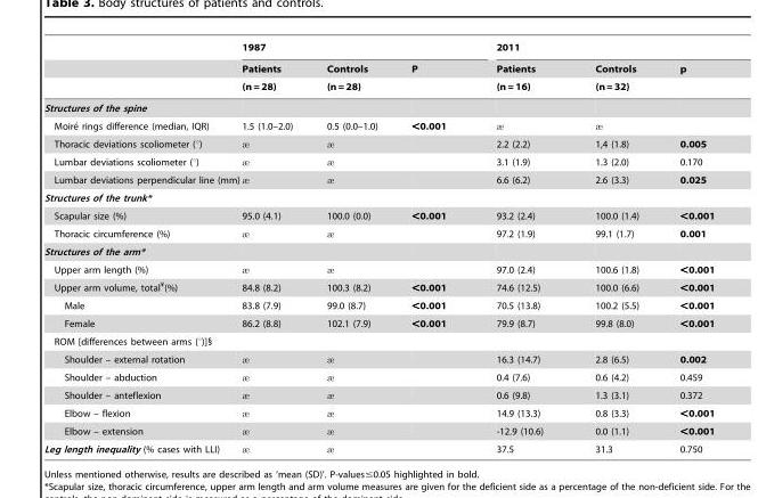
<table><thead><tr><td rowspan="3"></td><td colspan="3">1987</td><td colspan="3">2011</td></tr><tr><td rowspan="2">Patients (n = 28)</td><td rowspan="2">Controls (n = 28)</td><td rowspan="2">P</td><td rowspan="2">Patients (n = 16)</td><td rowspan="2">Controls (n = 32)</td><td rowspan="2">p</td></tr><tr></tr></thead><tbody><tr><td colspan="7">Structures of the spine</td></tr><tr><td>Moire´ rings difference (median, IQR)</td><td>1.5 (1.0–2.0)</td><td>0.5 (0.0–1.0)</td><td>&lt;0.001</td><td>�</td><td>�</td><td></td></tr><tr><td>Thoracic deviations scoliometer (°)</td><td>�</td><td>�</td><td></td><td>2.2 (2.2)</td><td>1,4 (1.8)</td><td>0.005</td></tr><tr><td>Lumbar deviations scoliometer (°)</td><td>�</td><td>�</td><td></td><td>3.1 (1.9)</td><td>1.3 (2.0)</td><td>0.170</td></tr><tr><td>Lumbar deviations perpendicular line (mm)</td><td>�</td><td>�</td><td></td><td>6.6 (6.2)</td><td>2.6 (3.3)</td><td>0.025</td></tr><tr><td colspan="7">Structures of the trunk*</td></tr><tr><td>Scapular size (%)</td><td>95.0 (4.1)</td><td>100.0 (0.0)</td><td>&lt;0.001</td><td>93.2 (2.4)</td><td>100.0 (1.4)</td><td>&lt;0.001</td></tr><tr><td>Thoracic circumference (%)</td><td>�</td><td>�</td><td></td><td>97.2 (1.9)</td><td>99.1 (1.7)</td><td>0.001</td></tr><tr><td colspan="7">Structures of the arm*</td></tr><tr><td>Upper arm length (%)</td><td>�</td><td>�</td><td></td><td>97.0 (2.4)</td><td>100.6 (1.8)</td><td>&lt;0.001</td></tr><tr><td>Upper arm volume, total¥(%)</td><td>84.8 (8.2)</td><td>100.3 (8.2)</td><td>&lt;0.001</td><td>74.6 (12.5)</td><td>100.0 (6.6)</td><td>&lt;0.001</td></tr><tr><td>Male</td><td>83.8 (7.9)</td><td>99.0 (8.7)</td><td>&lt;0.001</td><td>70.5 (13.8)</td><td>100.2 (5.5)</td><td>&lt;0.001</td></tr><tr><td>Female</td><td>86.2 (8.8)</td><td>102.1 (7.9)</td><td>&lt;0.001</td><td>79.9 (8.7)</td><td>99.8 (8.0)</td><td>&lt;0.001</td></tr><tr><td colspan="7">ROM [differences between arms (°)]§</td></tr><tr><td>Shoulder – external rotation</td><td>�</td><td>�</td><td></td><td>16.3 (14.7)</td><td>2.8 (6.5)</td><td>0.002</td></tr><tr><td>Shoulder – abduction</td><td>�</td><td>�</td><td></td><td>0.4 (7.6)</td><td>0.6 (4.2)</td><td>0.459</td></tr><tr><td>Shoulder – anteflexion</td><td>�</td><td>�</td><td></td><td>0.6 (9.8)</td><td>1.3 (3.1)</td><td>0.372</td></tr><tr><td>Elbow – flexion</td><td>�</td><td>�</td><td></td><td>14.9 (13.3)</td><td>0.8 (3.3)</td><td>&lt;0.001</td></tr><tr><td>Elbow – extension</td><td>�</td><td>�</td><td></td><td>-12.9 (10.6)</td><td>0.0 (1.1)</td><td>&lt;0.001</td></tr><tr><td>Leg length inequality (% cases with LLI)</td><td>�</td><td>�</td><td></td><td>37.5</td><td>31.3</td><td>0.750</td></tr></tbody></table>